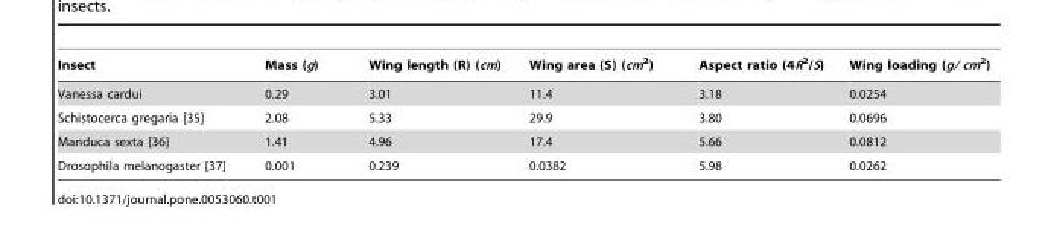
<table><thead><tr><td>Insect</td><td>Mass (g)</td><td>Wing length (R) (cm)</td><td>Wing area (S) (cm<sup>2</sup>)</td><td>Aspect ratio (4R<sup>2</sup>/S)</td><td>Wing loading (g/ cm<sup>2</sup>)</td></tr></thead><tbody><tr><td>Vanessa cardui</td><td>0.29</td><td>3.01</td><td>11.4</td><td>3.18</td><td>0.0254</td></tr><tr><td>Schistocerca gregaria [35]</td><td>2.08</td><td>5.33</td><td>29.9</td><td>3.80</td><td>0.0696</td></tr><tr><td>Manduca sexta [36]</td><td>1.41</td><td>4.96</td><td>17.4</td><td>5.66</td><td>0.0812</td></tr><tr><td>Drosophila melanogaster [37]</td><td>0.001</td><td>0.239</td><td>0.0382</td><td>5.98</td><td>0.0262</td></tr></tbody></table>